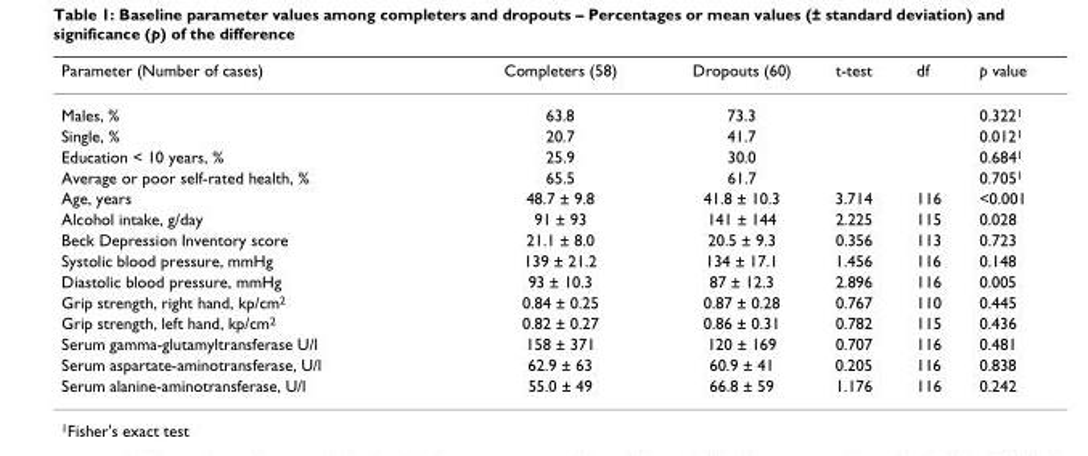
<table><thead><tr><td>Parameter (Number of cases)</td><td>Completers (58)</td><td>Dropouts (60)</td><td>t-test</td><td>df</td><td>p value</td></tr></thead><tbody><tr><td>Males, %</td><td>63.8</td><td>73.3</td><td></td><td></td><td>0.322<sup>1</sup></td></tr><tr><td>Single, %</td><td>20.7</td><td>41.7</td><td></td><td></td><td>0.012<sup>1</sup></td></tr><tr><td>Education &lt; 10 years, %</td><td>25.9</td><td>30.0</td><td></td><td></td><td>0.684<sup>1</sup></td></tr><tr><td>Average or poor self-rated health, %</td><td>65.5</td><td>61.7</td><td></td><td></td><td>0.705<sup>1</sup></td></tr><tr><td>Age, years</td><td>48.7 ± 9.8</td><td>41.8 ± 10.3</td><td>3.714</td><td>116</td><td>&lt;0.001</td></tr><tr><td>Alcohol intake, g/day</td><td>91 ± 93</td><td>141 ± 144</td><td>2.225</td><td>115</td><td>0.028</td></tr><tr><td>Beck Depression Inventory score</td><td>21.1 ± 8.0</td><td>20.5 ± 9.3</td><td>0.356</td><td>113</td><td>0.723</td></tr><tr><td>Systolic blood pressure, mmHg</td><td>139 ± 21.2</td><td>134 ± 17.1</td><td>1.456</td><td>116</td><td>0.148</td></tr><tr><td>Diastolic blood pressure, mmHg</td><td>93 ± 10.3</td><td>87 ± 12.3</td><td>2.896</td><td>116</td><td>0.005</td></tr><tr><td>Grip strength, right hand, kp/cm<sup>2</sup></td><td>0.84 ± 0.25</td><td>0.87 ± 0.28</td><td>0.767</td><td>110</td><td>0.445</td></tr><tr><td>Grip strength, left hand, kp/cm<sup>2</sup></td><td>0.82 ± 0.27</td><td>0.86 ± 0.31</td><td>0.782</td><td>115</td><td>0.436</td></tr><tr><td>Serum gamma-glutamyltransferase U/l</td><td>158 ± 371</td><td>120 ± 169</td><td>0.707</td><td>116</td><td>0.481</td></tr><tr><td>Serum aspartate-aminotransferase, U/l</td><td>62.9 ± 63</td><td>60.9 ± 41</td><td>0.205</td><td>116</td><td>0.838</td></tr><tr><td>Serum alanine-aminotransferase, U/l</td><td>55.0 ± 49</td><td>66.8 ± 59</td><td>1.176</td><td>116</td><td>0.242</td></tr></tbody></table>